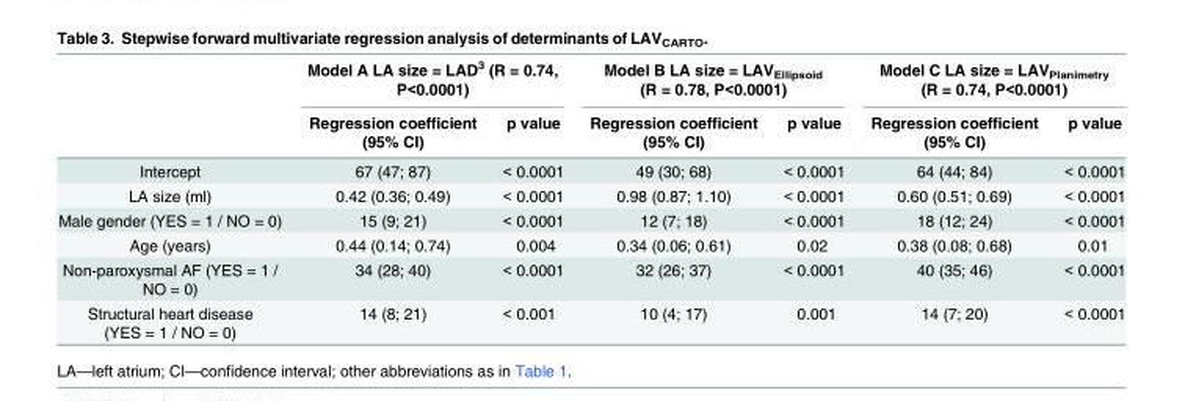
<table><thead><tr><td rowspan="2"></td><td colspan="2">Model A LA size = LAD<sup>3</sup> (R = 0.74, P&lt;0.0001)</td><td colspan="2">Model B LA size = LAV<sub>Ellipsoid</sub> (R = 0.78, P&lt;0.0001)</td><td colspan="2">Model C LA size = LAV<sub>Planimetry</sub> (R = 0.74, P&lt;0.0001)</td></tr><tr><td>Regression coefficient (95% CI)</td><td>p value</td><td>Regression coefficient (95% CI)</td><td>p value</td><td>Regression coefficient (95% CI)</td><td>p value</td></tr></thead><tbody><tr><td>Intercept</td><td>67 (47; 87)</td><td>&lt; 0.0001</td><td>49 (30; 68)</td><td>&lt; 0.0001</td><td>64 (44; 84)</td><td>&lt; 0.0001</td></tr><tr><td>LA size (ml)</td><td>0.42 (0.36; 0.49)</td><td>&lt; 0.0001</td><td>0.98 (0.87; 1.10)</td><td>&lt; 0.0001</td><td>0.60 (0.51; 0.69)</td><td>&lt; 0.0001</td></tr><tr><td>Male gender (YES = 1 / NO = 0)</td><td>15 (9; 21)</td><td>&lt; 0.0001</td><td>12 (7; 18)</td><td>&lt; 0.0001</td><td>18 (12; 24)</td><td>&lt; 0.0001</td></tr><tr><td>Age (years)</td><td>0.44 (0.14; 0.74)</td><td>0.004</td><td>0.34 (0.06; 0.61)</td><td>0.02</td><td>0.38 (0.08; 0.68)</td><td>0.01</td></tr><tr><td>Non-paroxysmal AF (YES = 1 / NO = 0)</td><td>34 (28; 40)</td><td>&lt; 0.0001</td><td>32 (26; 37)</td><td>&lt; 0.0001</td><td>40 (35; 46)</td><td>&lt; 0.0001</td></tr><tr><td>Structural heart disease (YES = 1 / NO = 0)</td><td>14 (8; 21)</td><td>&lt; 0.001</td><td>10 (4; 17)</td><td>0.001</td><td>14 (7; 20)</td><td>&lt; 0.0001</td></tr></tbody></table>